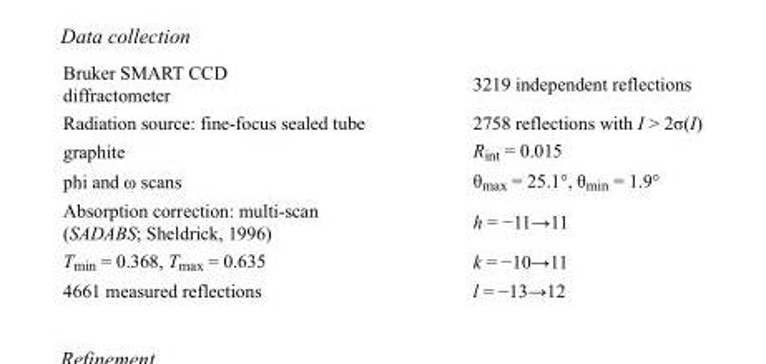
<table><tbody><tr><td>Bruker SMART CCD diffractometer</td><td>3219 independent reflections</td></tr><tr><td>Radiation source: fine-focus sealed tube</td><td>2758 reflections with I &gt; 2σ(I)</td></tr><tr><td>graphite</td><td>R<sub>int</sub> = 0.015</td></tr><tr><td>phi and ω scans</td><td>θ<sub>max</sub> = 25.1°, θ<sub>min</sub> = 1.9°</td></tr><tr><td>Absorption correction: multi-scan (SADABS; Sheldrick, 1996)</td><td>h = −11→11</td></tr><tr><td>T<sub>min</sub> = 0.368, T<sub>max</sub> = 0.635</td><td>k = −10→11</td></tr><tr><td>4661 measured reflections</td><td>l = −13→12</td></tr></tbody></table>